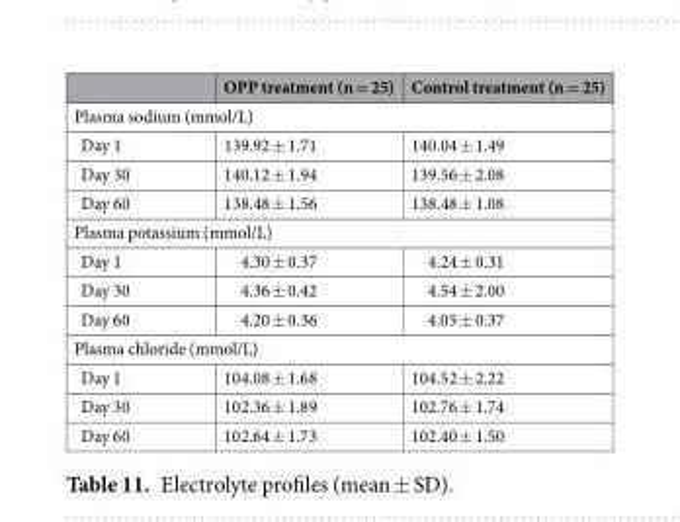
<table><thead><tr><td></td><td>OPP treatment (n = 25)</td><td>Control treatment (n = 25)</td></tr></thead><tbody><tr><td colspan="3">Plasma sodium (mmol/L)</td></tr><tr><td>Day 1</td><td>139.92 ± 1.71</td><td>140.04 ± 1.49</td></tr><tr><td>Day 30</td><td>140.12 ± 1.94</td><td>139.56 ± 2.08</td></tr><tr><td>Day 60</td><td>138.48 ± 1.56</td><td>138.48 ± 1.08</td></tr><tr><td colspan="3">Plasma potassium (mmol/L)</td></tr><tr><td>Day 1</td><td>4.30 ± 0.37</td><td>4.24 ± 0.31</td></tr><tr><td>Day 30</td><td>4.36 ± 0.42</td><td>4.54 ± 2.00</td></tr><tr><td>Day 60</td><td>4.20 ± 0.36</td><td>4.05 ± 0.37</td></tr><tr><td colspan="3">Plasma chloride (mmol/L)</td></tr><tr><td>Day 1</td><td>104.08 ± 1.68</td><td>104.52 ± 2.22</td></tr><tr><td>Day 30</td><td>102.36 ± 1.89</td><td>102.76 ± 1.74</td></tr><tr><td>Day 60</td><td>102.64 ± 1.73</td><td>102.40 ± 1.50</td></tr></tbody></table>